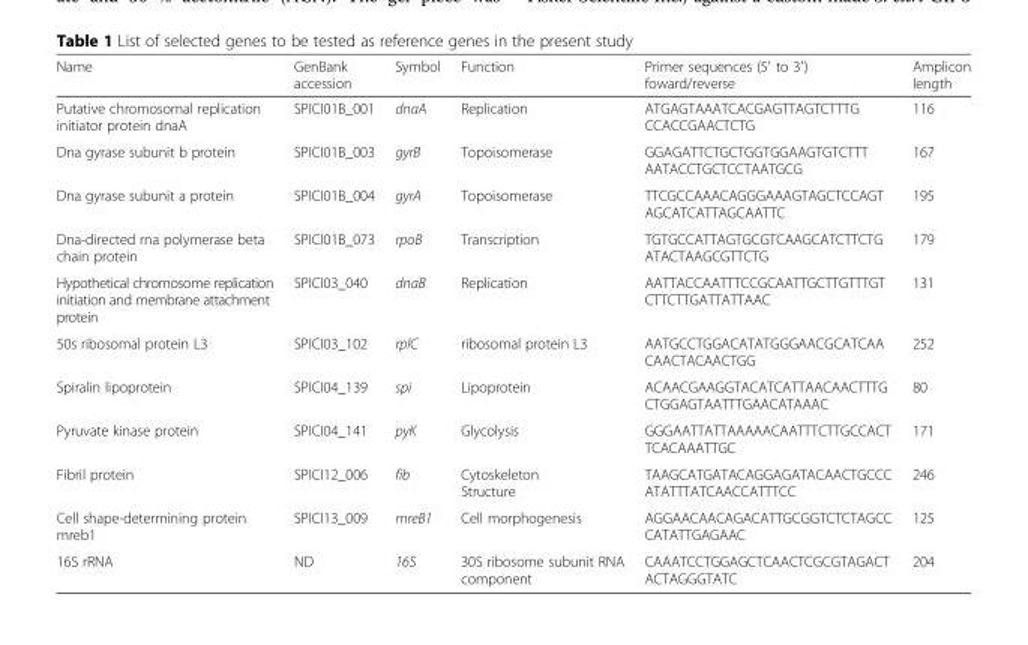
<table><thead><tr><td>Name</td><td>GenBank accession</td><td>Symbol</td><td>Function</td><td>Primer sequences (5′ to 3′) foward/reverse</td><td>Amplicon length</td></tr></thead><tbody><tr><td>Putative chromosomal replication initiator protein dnaA</td><td>SPICI01B_001</td><td>dnaA</td><td>Replication</td><td>ATGAGTAAATCACGAGTTAGTCTTTG CCACCGAACTCTG</td><td>116</td></tr><tr><td>Dna gyrase subunit b protein</td><td>SPICI01B_003</td><td>gyrB</td><td>Topoisomerase</td><td>GGAGATTCTGCTGGTGGAAGTGTCTTT AATACCTGCTCCTAATGCG</td><td>167</td></tr><tr><td>Dna gyrase subunit a protein</td><td>SPICI01B_004</td><td>gyrA</td><td>Topoisomerase</td><td>TTCGCCAAACAGGGAAAGTAGCTCCAGT AGCATCATTAGCAATTC</td><td>195</td></tr><tr><td>Dna-directed rna polymerase beta chain protein</td><td>SPICI01B_073</td><td>rpoB</td><td>Transcription</td><td>TGTGCCATTAGTGCGTCAAGCATCTTCTG ATACTAAGCGTTCTG</td><td>179</td></tr><tr><td>Hypothetical chromosome replication initiation and membrane attachment protein</td><td>SPICI03_040</td><td>dnaB</td><td>Replication</td><td>AATTACCAATTTCCGCAATTGCTTGTTTGT CTTCTTGATTATTAAC</td><td>131</td></tr><tr><td>50s ribosomal protein L3</td><td>SPICI03_102</td><td>rplC</td><td>ribosomal protein L3</td><td>AATGCCTGGACATATGGGAACGCATCAA CAACTACAACTGG</td><td>252</td></tr><tr><td>Spiralin lipoprotein</td><td>SPICI04_139</td><td>spi</td><td>Lipoprotein</td><td>ACAACGAAGGTACATCATTAACAACTTTG CTGGAGTAATTTGAACATAAAC</td><td>80</td></tr><tr><td>Pyruvate kinase protein</td><td>SPICI04_141</td><td>pyK</td><td>Glycolysis</td><td>GGGAATTATTAAAAACAATTTCTTGCCACT TCACAAATTGC</td><td>171</td></tr><tr><td>Fibril protein</td><td>SPICI12_006</td><td>fib</td><td>Cytoskeleton Structure</td><td>TAAGCATGATACAGGAGATACAACTGCCC ATATTTATCAACCATTTCC</td><td>246</td></tr><tr><td>Cell shape-determining protein mreb1</td><td>SPICI13_009</td><td>mreB1</td><td>Cell morphogenesis</td><td>AGGAACAACAGACATTGCGGTCTCTAGCC CATATTGAGAAC</td><td>125</td></tr><tr><td>16S rRNA</td><td>ND</td><td>16S</td><td>30S ribosome subunit RNA component</td><td>CAAATCCTGGAGCTCAACTCGCGTAGACT ACTAGGGTATC</td><td>204</td></tr></tbody></table>